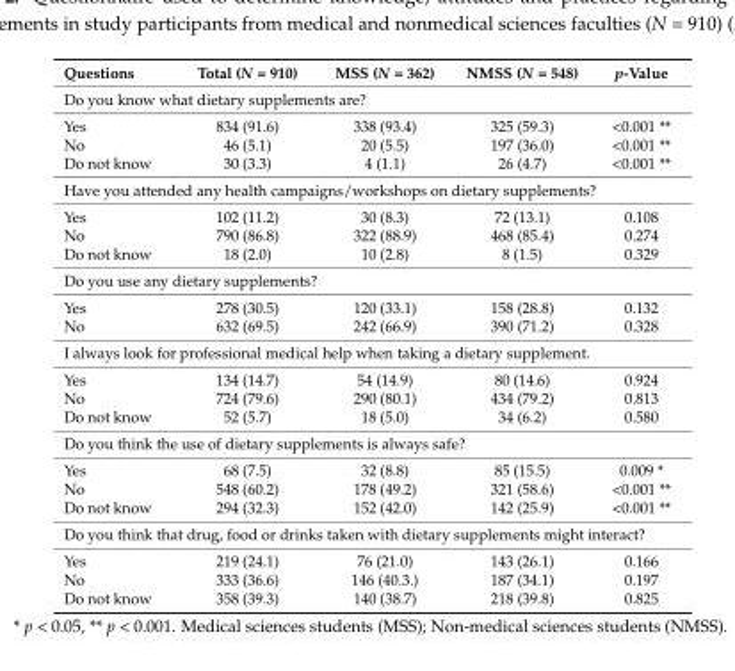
<table><thead><tr><td>Questions</td><td>Total (N = 910)</td><td>MSS (N = 362)</td><td>NMSS (N = 548)</td><td>p-Value</td></tr></thead><tbody><tr><td colspan="5">Do you know what dietary supplements are?</td></tr><tr><td>Yes</td><td>834 (91.6)</td><td>338 (93.4)</td><td>325 (59.3)</td><td>&lt;0.001 **</td></tr><tr><td>No</td><td>46 (5.1)</td><td>20 (5.5)</td><td>197 (36.0)</td><td>&lt;0.001 **</td></tr><tr><td>Do not know</td><td>30 (3.3)</td><td>4 (1.1)</td><td>26 (4.7)</td><td>&lt;0.001 **</td></tr><tr><td colspan="5">Have you attended any health campaigns/workshops on dietary supplements?</td></tr><tr><td>Yes</td><td>102 (11.2)</td><td>30 (8.3)</td><td>72 (13.1)</td><td>0.108</td></tr><tr><td>No</td><td>790 (86.8)</td><td>322 (88.9)</td><td>468 (85.4)</td><td>0.274</td></tr><tr><td>Do not know</td><td>18 (2.0)</td><td>10 (2.8)</td><td>8 (1.5)</td><td>0.329</td></tr><tr><td colspan="5">Do you use any dietary supplements?</td></tr><tr><td>Yes</td><td>278 (30.5)</td><td>120 (33.1)</td><td>158 (28.8)</td><td>0.132</td></tr><tr><td>No</td><td>632 (69.5)</td><td>242 (66.9)</td><td>390 (71.2)</td><td>0.328</td></tr><tr><td colspan="5">I always look for professional medical help when taking a dietary supplement.</td></tr><tr><td>Yes</td><td>134 (14.7)</td><td>54 (14.9)</td><td>80 (14.6)</td><td>0.924</td></tr><tr><td>No</td><td>724 (79.6)</td><td>290 (80.1)</td><td>434 (79.2)</td><td>0.813</td></tr><tr><td>Do not know</td><td>52 (5.7)</td><td>18 (5.0)</td><td>34 (6.2)</td><td>0.580</td></tr><tr><td colspan="5">Do you think the use of dietary supplements is always safe?</td></tr><tr><td>Yes</td><td>68 (7.5)</td><td>32 (8.8)</td><td>85 (15.5)</td><td>0.009 *</td></tr><tr><td>No</td><td>548 (60.2)</td><td>178 (49.2)</td><td>321 (58.6)</td><td>&lt;0.001 **</td></tr><tr><td>Do not know</td><td>294 (32.3)</td><td>152 (42.0)</td><td>142 (25.9)</td><td>&lt;0.001 **</td></tr><tr><td colspan="5">Do you think that drug, food or drinks taken with dietary supplements might interact?</td></tr><tr><td>Yes</td><td>219 (24.1)</td><td>76 (21.0)</td><td>143 (26.1)</td><td>0.166</td></tr><tr><td>No</td><td>333 (36.6)</td><td>146 (40.3.)</td><td>187 (34.1)</td><td>0.197</td></tr><tr><td>Do not know</td><td>358 (39.3)</td><td>140 (38.7)</td><td>218 (39.8)</td><td>0.825</td></tr></tbody></table>